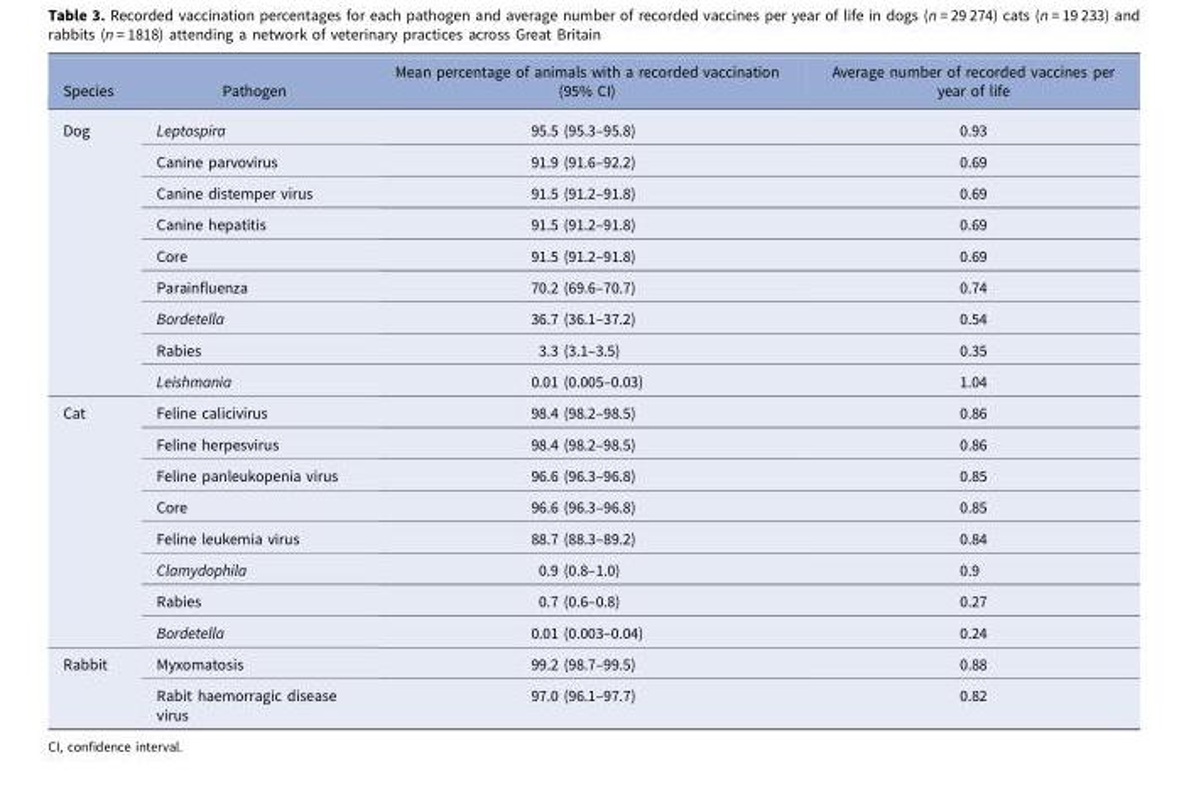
<table><thead><tr><td>Species</td><td>Pathogen</td><td>Mean percentage of animals with a recorded vaccination (95% CI)</td><td>Average number of recorded vaccines per year of life</td></tr></thead><tbody><tr><td rowspan="9">Dog</td><td>Leptospira</td><td>95.5 (95.3–95.8)</td><td>0.93</td></tr><tr><td>Canine parvovirus</td><td>91.9 (91.6–92.2)</td><td>0.69</td></tr><tr><td>Canine distemper virus</td><td>91.5 (91.2–91.8)</td><td>0.69</td></tr><tr><td>Canine hepatitis</td><td>91.5 (91.2–91.8)</td><td>0.69</td></tr><tr><td>Core</td><td>91.5 (91.2–91.8)</td><td>0.69</td></tr><tr><td>Parainfluenza</td><td>70.2 (69.6–70.7)</td><td>0.74</td></tr><tr><td>Bordetella</td><td>36.7 (36.1–37.2)</td><td>0.54</td></tr><tr><td>Rabies</td><td>3.3 (3.1–3.5)</td><td>0.35</td></tr><tr><td>Leishmania</td><td>0.01 (0.005–0.03)</td><td>1.04</td></tr><tr><td rowspan="8">Cat</td><td>Feline calicivirus</td><td>98.4 (98.2–98.5)</td><td>0.86</td></tr><tr><td>Feline herpesvirus</td><td>98.4 (98.2–98.5)</td><td>0.86</td></tr><tr><td>Feline panleukopenia virus</td><td>96.6 (96.3–96.8)</td><td>0.85</td></tr><tr><td>Core</td><td>96.6 (96.3–96.8)</td><td>0.85</td></tr><tr><td>Feline leukemia virus</td><td>88.7 (88.3–89.2)</td><td>0.84</td></tr><tr><td>Clamydophila</td><td>0.9 (0.8–1.0)</td><td>0.9</td></tr><tr><td>Rabies</td><td>0.7 (0.6–0.8)</td><td>0.27</td></tr><tr><td>Bordetella</td><td>0.01 (0.003–0.04)</td><td>0.24</td></tr><tr><td rowspan="2">Rabbit</td><td>Myxomatosis</td><td>99.2 (98.7–99.5)</td><td>0.88</td></tr><tr><td>Rabit haemorragic disease virus</td><td>97.0 (96.1–97.7)</td><td>0.82</td></tr></tbody></table>